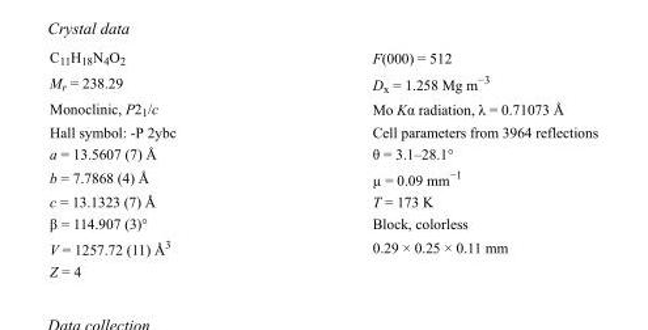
<table><tbody><tr><td>C<sub>11</sub>H<sub>18</sub>N<sub>4</sub>O<sub>2</sub></td><td>F(000) = 512</td></tr><tr><td>M<sub>r</sub> = 238.29</td><td>D<sub>x</sub> = 1.258 Mg m<sup>−3</sup></td></tr><tr><td>Monoclinic, P2<sub>1</sub>/c</td><td>Mo Kα radiation, λ = 0.71073 Å</td></tr><tr><td>Hall symbol: -P 2ybc</td><td>Cell parameters from 3964 reflections</td></tr><tr><td>a = 13.5607 (7) Å</td><td>θ = 3.1–28.1°</td></tr><tr><td>b = 7.7868 (4) Å</td><td>µ = 0.09 mm<sup>−1</sup></td></tr><tr><td>c = 13.1323 (7) Å</td><td>T = 173 K</td></tr><tr><td>β = 114.907 (3)°</td><td>Block, colorless</td></tr><tr><td>V = 1257.72 (11) Å<sup>3</sup></td><td>0.29 × 0.25 × 0.11 mm</td></tr><tr><td>Z = 4</td><td></td></tr></tbody></table>